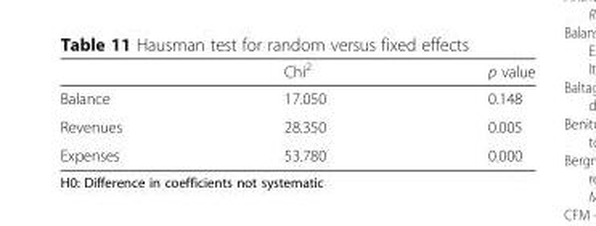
<table><thead><tr><td></td><td>Chi<sup>2</sup></td><td>p value</td></tr></thead><tbody><tr><td>Balance</td><td>17.050</td><td>0.148</td></tr><tr><td>Revenues</td><td>28.350</td><td>0.005</td></tr><tr><td>Expenses</td><td>53.780</td><td>0.000</td></tr></tbody></table>